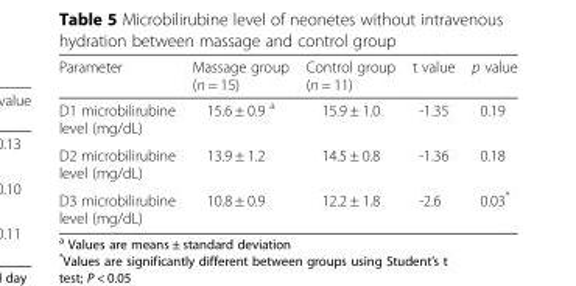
<table><thead><tr><td>Parameter</td><td>Massage group (n = 15)</td><td>Control group (n = 11)</td><td>t value</td><td>p value</td></tr></thead><tbody><tr><td>D1 microbilirubine level (mg/dL)</td><td>15.6 ± 0.9 <sup>a</sup></td><td>15.9 ± 1.0</td><td>-1.35</td><td>0.19</td></tr><tr><td>D2 microbilirubine level (mg/dL)</td><td>13.9 ± 1.2</td><td>14.5 ± 0.8</td><td>-1.36</td><td>0.18</td></tr><tr><td>D3 microbilirubine level (mg/dL)</td><td>10.8 ± 0.9</td><td>12.2 ± 1.8</td><td>-2.6</td><td>0.03*</td></tr></tbody></table>